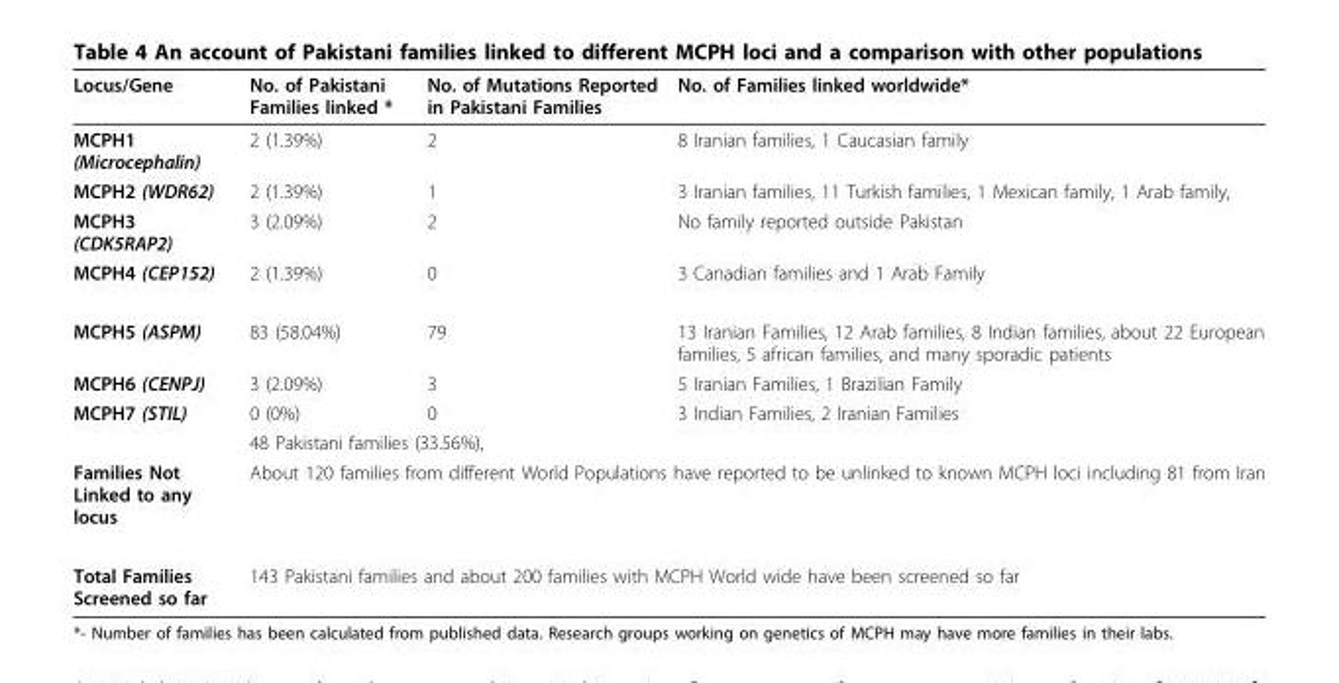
<table><thead><tr><td>Locus/Gene</td><td>No. of Pakistani Families linked *</td><td>No. of Mutations Reported in Pakistani Families</td><td>No. of Families linked worldwide*</td></tr></thead><tbody><tr><td>MCPH1 (Microcephalin)</td><td>2 (1.39%)</td><td>2</td><td>8 Iranian families, 1 Caucasian family</td></tr><tr><td>MCPH2 (WDR62)</td><td>2 (1.39%)</td><td>1</td><td>3 Iranian families, 11 Turkish families, 1 Mexican family, 1 Arab family,</td></tr><tr><td>MCPH3 (CDK5RAP2)</td><td>3 (2.09%)</td><td>2</td><td>No family reported outside Pakistan</td></tr><tr><td>MCPH4 (CEP152)</td><td>2 (1.39%)</td><td>0</td><td>3 Canadian families and 1 Arab Family</td></tr><tr><td>MCPH5 (ASPM)</td><td>83 (58.04%)</td><td>79</td><td>13 Iranian Families, 12 Arab families, 8 Indian families, about 22 European families, 5 african families, and many sporadic patients</td></tr><tr><td>MCPH6 (CENPJ)</td><td>3 (2.09%)</td><td>3</td><td>5 Iranian Families, 1 Brazilian Family</td></tr><tr><td rowspan="2">MCPH7 (STIL)</td><td>0 (0%)</td><td>0</td><td>3 Indian Families, 2 Iranian Families</td></tr><tr><td colspan="3">48 Pakistani families (33.56%),</td></tr><tr><td>Families Not Linked to any locus</td><td colspan="3">About 120 families from different World Populations have reported to be unlinked to known MCPH loci including 81 from Iran</td></tr><tr><td>Total Families Screened so far</td><td colspan="3">143 Pakistani families and about 200 families with MCPH World wide have been screened so far</td></tr></tbody></table>